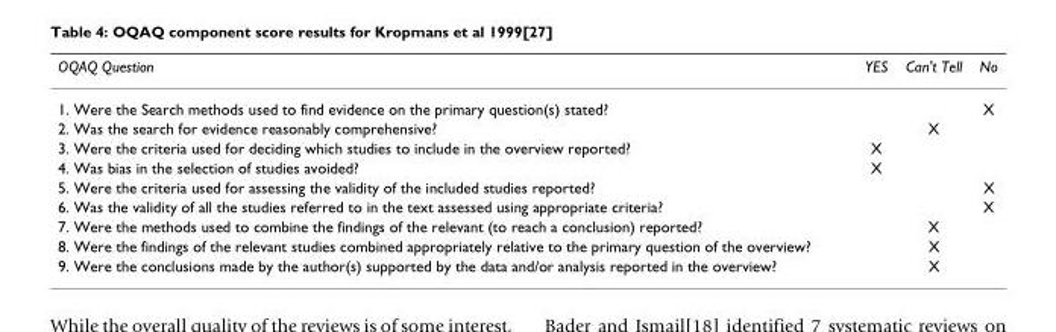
<table><thead><tr><td>OQAQ Question</td><td>YES</td><td>Can&#x27;t Tell</td><td>No</td></tr></thead><tbody><tr><td>1. Were the Search methods used to find evidence on the primary question(s) stated?</td><td></td><td></td><td>X</td></tr><tr><td>2. Was the search for evidence reasonably comprehensive?</td><td></td><td>X</td><td></td></tr><tr><td>3. Were the criteria used for deciding which studies to include in the overview reported?</td><td>X</td><td></td><td></td></tr><tr><td>4. Was bias in the selection of studies avoided?</td><td>X</td><td></td><td></td></tr><tr><td>5. Were the criteria used for assessing the validity of the included studies reported?</td><td></td><td></td><td>X</td></tr><tr><td>6. Was the validity of all the studies referred to in the text assessed using appropriate criteria?</td><td></td><td></td><td>X</td></tr><tr><td>7. Were the methods used to combine the findings of the relevant (to reach a conclusion) reported?</td><td></td><td>X</td><td></td></tr><tr><td>8. Were the findings of the relevant studies combined appropriately relative to the primary question of the overview?</td><td></td><td>X</td><td></td></tr><tr><td>9. Were the conclusions made by the author(s) supported by the data and/or analysis reported in the overview?</td><td></td><td>X</td><td></td></tr></tbody></table>